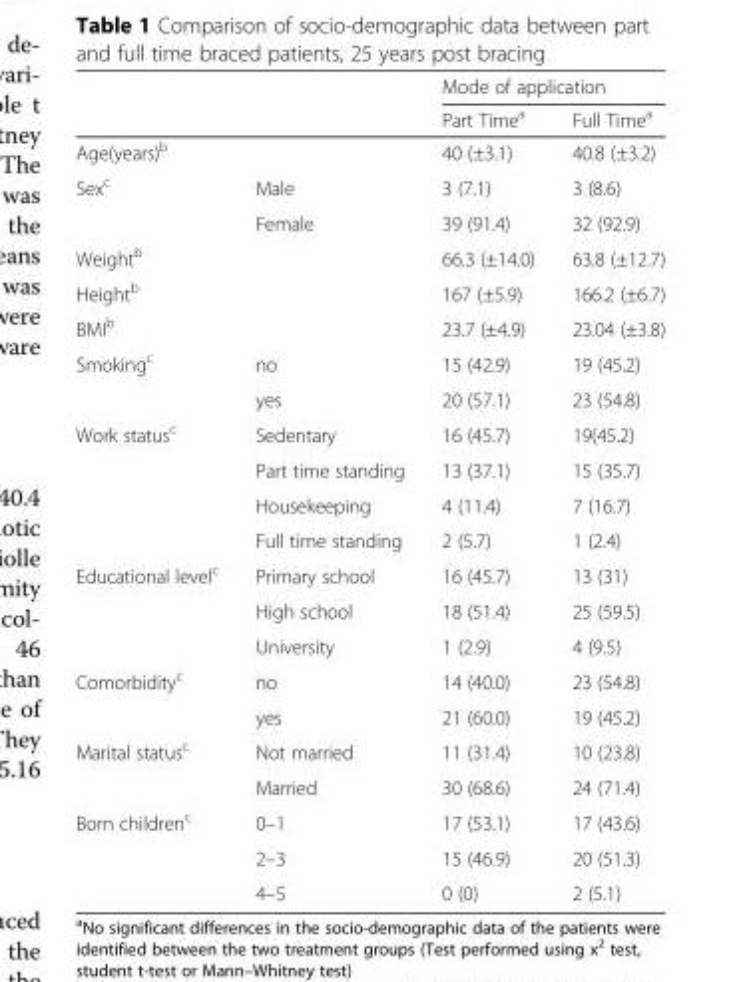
<table><thead><tr><td rowspan="2"></td><td rowspan="2"></td><td colspan="2">Mode of application</td></tr><tr><td>Part Time<sup>a</sup></td><td>Full Time<sup>a</sup></td></tr></thead><tbody><tr><td colspan="2">Age(years)<sup>b</sup></td><td>40 (±3.1)</td><td>40.8 (±3.2)</td></tr><tr><td rowspan="2">Sex<sup>c</sup></td><td>Male</td><td>3 (7.1)</td><td>3 (8.6)</td></tr><tr><td>Female</td><td>39 (91.4)</td><td>32 (92.9)</td></tr><tr><td colspan="2">Weight<sup>b</sup></td><td>66.3 (±14.0)</td><td>63.8 (±12.7)</td></tr><tr><td colspan="2">Height<sup>b</sup></td><td>167 (±5.9)</td><td>166.2 (±6.7)</td></tr><tr><td colspan="2">BMI<sup>b</sup></td><td>23.7 (±4.9)</td><td>23.04 (±3.8)</td></tr><tr><td rowspan="2">Smoking<sup>c</sup></td><td>no</td><td>15 (42.9)</td><td>19 (45.2)</td></tr><tr><td>yes</td><td>20 (57.1)</td><td>23 (54.8)</td></tr><tr><td rowspan="4">Work status<sup>c</sup></td><td>Sedentary</td><td>16 (45.7)</td><td>19(45.2)</td></tr><tr><td>Part time standing</td><td>13 (37.1)</td><td>15 (35.7)</td></tr><tr><td>Housekeeping</td><td>4 (11.4)</td><td>7 (16.7)</td></tr><tr><td>Full time standing</td><td>2 (5.7)</td><td>1 (2.4)</td></tr><tr><td rowspan="3">Educational level<sup>c</sup></td><td>Primary school</td><td>16 (45.7)</td><td>13 (31)</td></tr><tr><td>High school</td><td>18 (51.4)</td><td>25 (59.5)</td></tr><tr><td>University</td><td>1 (2.9)</td><td>4 (9.5)</td></tr><tr><td rowspan="2">Comorbidity<sup>c</sup></td><td>no</td><td>14 (40.0)</td><td>23 (54.8)</td></tr><tr><td>yes</td><td>21 (60.0)</td><td>19 (45.2)</td></tr><tr><td rowspan="2">Marital status<sup>c</sup></td><td>Not married</td><td>11 (31.4)</td><td>10 (23.8)</td></tr><tr><td>Married</td><td>30 (68.6)</td><td>24 (71.4)</td></tr><tr><td rowspan="3">Born children<sup>c</sup></td><td>0–1</td><td>17 (53.1)</td><td>17 (43.6)</td></tr><tr><td>2–3</td><td>15 (46.9)</td><td>20 (51.3)</td></tr><tr><td>4–5</td><td>0 (0)</td><td>2 (5.1)</td></tr></tbody></table>